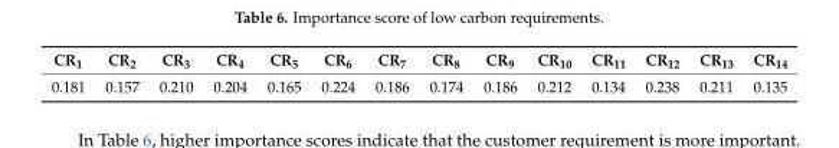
<table><thead><tr><td>CR<sub>1</sub></td><td>CR<sub>2</sub></td><td>CR<sub>3</sub></td><td>CR<sub>4</sub></td><td>CR<sub>5</sub></td><td>CR<sub>6</sub></td><td>CR<sub>7</sub></td><td>CR<sub>8</sub></td><td>CR<sub>9</sub></td><td>CR<sub>10</sub></td><td>CR<sub>11</sub></td><td>CR<sub>12</sub></td><td>CR<sub>13</sub></td><td>CR<sub>14</sub></td></tr></thead><tbody><tr><td>0.181</td><td>0.157</td><td>0.210</td><td>0.204</td><td>0.165</td><td>0.224</td><td>0.186</td><td>0.174</td><td>0.186</td><td>0.212</td><td>0.134</td><td>0.238</td><td>0.211</td><td>0.135</td></tr></tbody></table>